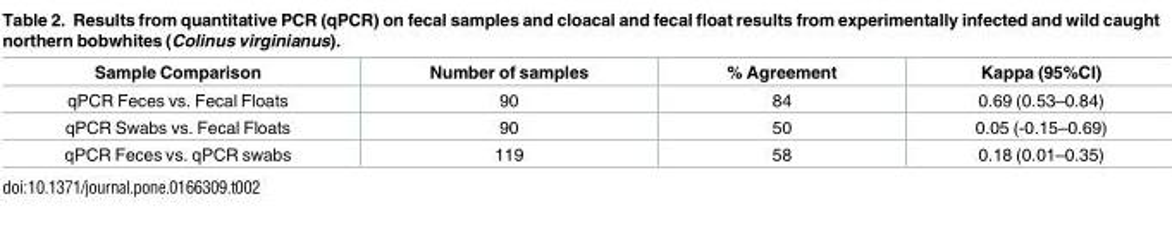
<table><thead><tr><td>Sample Comparison</td><td>Number of samples</td><td>% Agreement</td><td>Kappa (95%CI)</td></tr></thead><tbody><tr><td>qPCR Feces vs. Fecal Floats</td><td>90</td><td>84</td><td>0.69 (0.53–0.84)</td></tr><tr><td>qPCR Swabs vs. Fecal Floats</td><td>90</td><td>50</td><td>0.05 (-0.15–0.69)</td></tr><tr><td>qPCR Feces vs. qPCR swabs</td><td>119</td><td>58</td><td>0.18 (0.01–0.35)</td></tr></tbody></table>